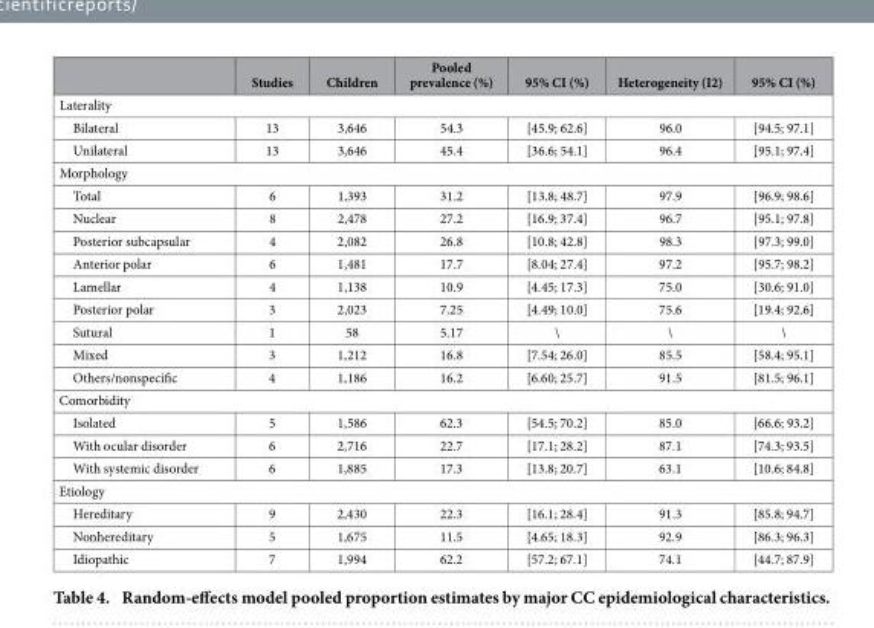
<table><thead><tr><td></td><td>Studies</td><td>Children</td><td>Pooled prevalence (%)</td><td>95% CI (%)</td><td>Heterogeneity (I2)</td><td>95% CI (%)</td></tr></thead><tbody><tr><td colspan="7">Laterality</td></tr><tr><td>Bilateral</td><td>13</td><td>3,646</td><td>54.3</td><td>[45.9; 62.6]</td><td>96.0</td><td>[94.5; 97.1]</td></tr><tr><td>Unilateral</td><td>13</td><td>3,646</td><td>45.4</td><td>[36.6; 54.1]</td><td>96.4</td><td>[95.1; 97.4]</td></tr><tr><td colspan="7">Morphology</td></tr><tr><td>Total</td><td>6</td><td>1,393</td><td>31.2</td><td>[13.8; 48.7]</td><td>97.9</td><td>[96.9; 98.6]</td></tr><tr><td>Nuclear</td><td>8</td><td>2,478</td><td>27.2</td><td>[16.9; 37.4]</td><td>96.7</td><td>[95.1; 97.8]</td></tr><tr><td>Posterior subcapsular</td><td>4</td><td>2,082</td><td>26.8</td><td>[10.8; 42.8]</td><td>98.3</td><td>[97.3; 99.0]</td></tr><tr><td>Anterior polar</td><td>6</td><td>1,481</td><td>17.7</td><td>[8.04; 27.4]</td><td>97.2</td><td>[95.7; 98.2]</td></tr><tr><td>Lamellar</td><td>4</td><td>1,138</td><td>10.9</td><td>[4.45; 17.3]</td><td>75.0</td><td>[30.6; 91.0]</td></tr><tr><td>Posterior polar</td><td>3</td><td>2,023</td><td>7.25</td><td>[4.49; 10.0]</td><td>75.6</td><td>[19.4; 92.6]</td></tr><tr><td>Sutural</td><td>1</td><td>58</td><td>5.17</td><td>\</td><td>\</td><td>\</td></tr><tr><td>Mixed</td><td>3</td><td>1,212</td><td>16.8</td><td>[7.54; 26.0]</td><td>85.5</td><td>[58.4; 95.1]</td></tr><tr><td>Others/nonspecific</td><td>4</td><td>1,186</td><td>16.2</td><td>[6.60; 25.7]</td><td>91.5</td><td>[81.5; 96.1]</td></tr><tr><td colspan="7">Comorbidity</td></tr><tr><td>Isolated</td><td>5</td><td>1,586</td><td>62.3</td><td>[54.5; 70.2]</td><td>85.0</td><td>[66.6; 93.2]</td></tr><tr><td>With ocular disorder</td><td>6</td><td>2,716</td><td>22.7</td><td>[17.1; 28.2]</td><td>87.1</td><td>[74.3; 93.5]</td></tr><tr><td>With systemic disorder</td><td>6</td><td>1,885</td><td>17.3</td><td>[13.8; 20.7]</td><td>63.1</td><td>[10.6; 84.8]</td></tr><tr><td colspan="7">Etiology</td></tr><tr><td>Hereditary</td><td>9</td><td>2,430</td><td>22.3</td><td>[16.1; 28.4]</td><td>91.3</td><td>[85.8; 94.7]</td></tr><tr><td>Nonhereditary</td><td>5</td><td>1,675</td><td>11.5</td><td>[4.65; 18.3]</td><td>92.9</td><td>[86.3; 96.3]</td></tr><tr><td>Idiopathic</td><td>7</td><td>1,994</td><td>62.2</td><td>[57.2; 67.1]</td><td>74.1</td><td>[44.7; 87.9]</td></tr></tbody></table>